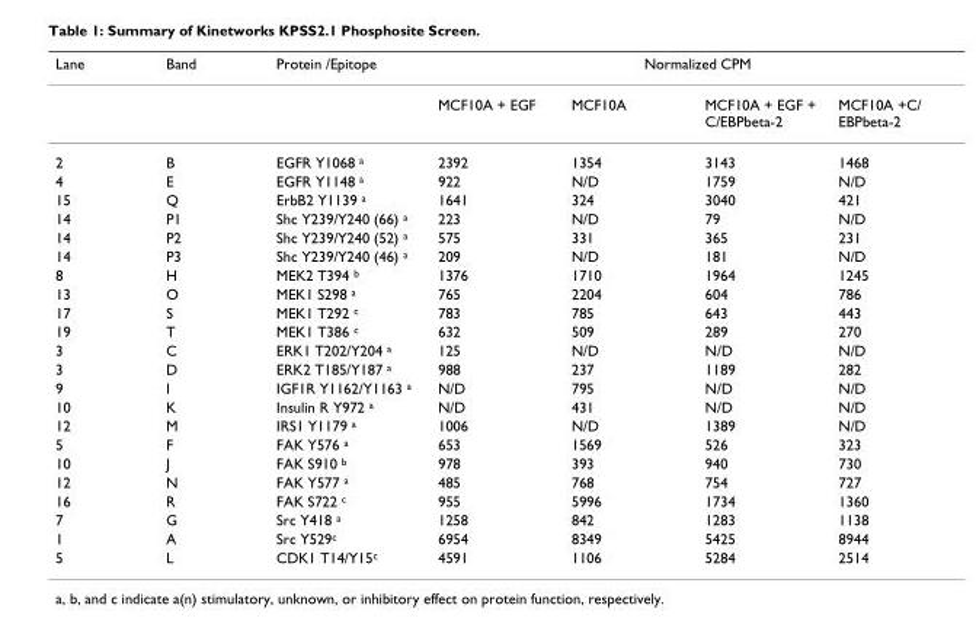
<table><thead><tr><td rowspan="2">Lane</td><td rowspan="2">Band</td><td rowspan="2">Protein /Epitope</td><td colspan="4">Normalized CPM</td></tr><tr><td>MCF10A + EGF</td><td>MCF10A</td><td>MCF10A + EGF + C/EBPbeta-2</td><td>MCF10A +C/ EBPbeta-2</td></tr></thead><tbody><tr><td>2</td><td>B</td><td>EGFR Y1068 <sup>a</sup></td><td>2392</td><td>1354</td><td>3143</td><td>1468</td></tr><tr><td>4</td><td>E</td><td>EGFR Y1148 <sup>a</sup></td><td>922</td><td>N/D</td><td>1759</td><td>N/D</td></tr><tr><td>15</td><td>Q</td><td>ErbB2 Y1139 <sup>a</sup></td><td>1641</td><td>324</td><td>3040</td><td>421</td></tr><tr><td>14</td><td>P1</td><td>Shc Y239/Y240 (66) <sup>a</sup></td><td>223</td><td>N/D</td><td>79</td><td>N/D</td></tr><tr><td>14</td><td>P2</td><td>Shc Y239/Y240 (52) <sup>a</sup></td><td>575</td><td>331</td><td>365</td><td>231</td></tr><tr><td>14</td><td>P3</td><td>Shc Y239/Y240 (46) <sup>a</sup></td><td>209</td><td>N/D</td><td>181</td><td>N/D</td></tr><tr><td>8</td><td>H</td><td>MEK2 T394 <sup>b</sup></td><td>1376</td><td>1710</td><td>1964</td><td>1245</td></tr><tr><td>13</td><td>O</td><td>MEK1 S298 <sup>a</sup></td><td>765</td><td>2204</td><td>604</td><td>786</td></tr><tr><td>17</td><td>S</td><td>MEK1 T292 <sup>c</sup></td><td>783</td><td>785</td><td>643</td><td>443</td></tr><tr><td>19</td><td>T</td><td>MEK1 T386 <sup>c</sup></td><td>632</td><td>509</td><td>289</td><td>270</td></tr><tr><td>3</td><td>C</td><td>ERK1 T202/Y204 <sup>a</sup></td><td>125</td><td>N/D</td><td>N/D</td><td>N/D</td></tr><tr><td>3</td><td>D</td><td>ERK2 T185/Y187 <sup>a</sup></td><td>988</td><td>237</td><td>1189</td><td>282</td></tr><tr><td>9</td><td>I</td><td>IGF1R Y1162/Y1163 <sup>a</sup></td><td>N/D</td><td>795</td><td>N/D</td><td>N/D</td></tr><tr><td>10</td><td>K</td><td>Insulin R Y972 <sup>a</sup></td><td>N/D</td><td>431</td><td>N/D</td><td>N/D</td></tr><tr><td>12</td><td>M</td><td>IRS1 Y1179 <sup>a</sup></td><td>1006</td><td>N/D</td><td>1389</td><td>N/D</td></tr><tr><td>5</td><td>F</td><td>FAK Y576 <sup>a</sup></td><td>653</td><td>1569</td><td>526</td><td>323</td></tr><tr><td>10</td><td>J</td><td>FAK S910 <sup>b</sup></td><td>978</td><td>393</td><td>940</td><td>730</td></tr><tr><td>12</td><td>N</td><td>FAK Y577 <sup>a</sup></td><td>485</td><td>768</td><td>754</td><td>727</td></tr><tr><td>16</td><td>R</td><td>FAK S722 <sup>c</sup></td><td>955</td><td>5996</td><td>1734</td><td>1360</td></tr><tr><td>7</td><td>G</td><td>Src Y418 <sup>a</sup></td><td>1258</td><td>842</td><td>1283</td><td>1138</td></tr><tr><td>1</td><td>A</td><td>Src Y529<sup>c</sup></td><td>6954</td><td>8349</td><td>5425</td><td>8944</td></tr><tr><td>5</td><td>L</td><td>CDK1 T14/Y15<sup>c</sup></td><td>4591</td><td>1106</td><td>5284</td><td>2514</td></tr></tbody></table>